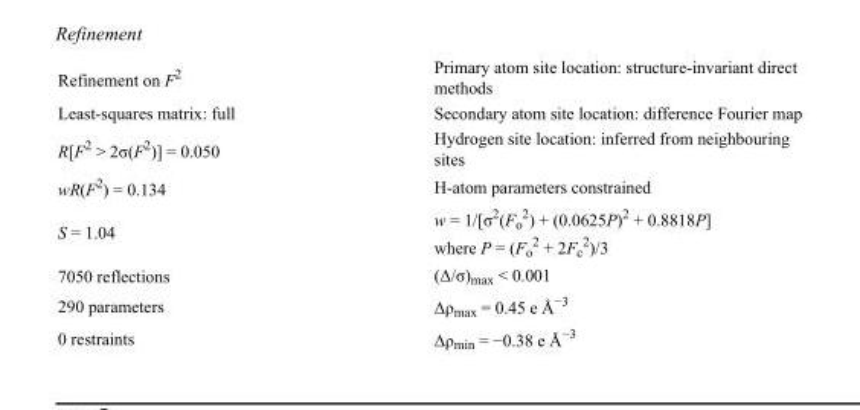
<table><tbody><tr><td>Refinement on F<sup>2</sup></td><td>Primary atom site location: structure-invariant direct methods</td></tr><tr><td>Least-squares matrix: full</td><td>Secondary atom site location: difference Fourier map</td></tr><tr><td>R[F<sup>2</sup> &gt; 2σ(F<sup>2</sup>)] = 0.050</td><td>Hydrogen site location: inferred from neighbouring sites</td></tr><tr><td>wR(F<sup>2</sup>) = 0.134</td><td>H-atom parameters constrained</td></tr><tr><td>S = 1.04</td><td>w = 1/[σ<sup>2</sup>(F<sub>o</sub> <sup>2</sup>) + (0.0625P)<sup>2</sup> + 0.8818P] where P = (F<sub>o</sub> <sup>2</sup> + 2F<sub>c</sub> <sup>2</sup>)/3</td></tr><tr><td>7050 reflections</td><td>(Δ/σ)<sub>max</sub> &lt; 0.001</td></tr><tr><td>290 parameters</td><td>Δρ<sub>max</sub> = 0.45 e Å<sup>−3</sup></td></tr><tr><td>0 restraints</td><td>Δρ<sub>min</sub> = −0.38 e Å<sup>−3</sup></td></tr></tbody></table>